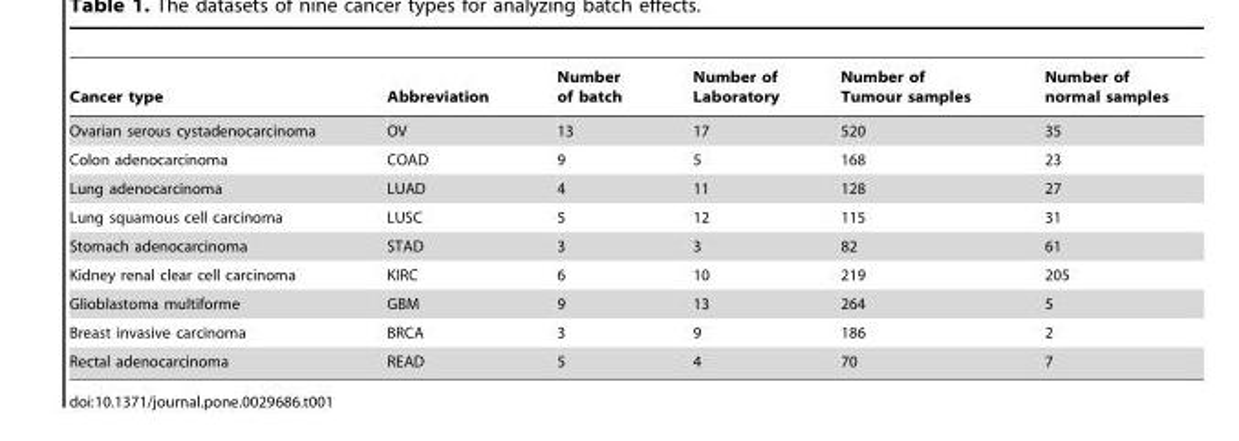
<table><thead><tr><td>Cancer type</td><td>Abbreviation</td><td>Number of batch</td><td>Number of Laboratory</td><td>Number of Tumour samples</td><td>Number of normal samples</td></tr></thead><tbody><tr><td>Ovarian serous cystadenocarcinoma</td><td>OV</td><td>13</td><td>17</td><td>520</td><td>35</td></tr><tr><td>Colon adenocarcinoma</td><td>COAD</td><td>9</td><td>5</td><td>168</td><td>23</td></tr><tr><td>Lung adenocarcinoma</td><td>LUAD</td><td>4</td><td>11</td><td>128</td><td>27</td></tr><tr><td>Lung squamous cell carcinoma</td><td>LUSC</td><td>5</td><td>12</td><td>115</td><td>31</td></tr><tr><td>Stomach adenocarcinoma</td><td>STAD</td><td>3</td><td>3</td><td>82</td><td>61</td></tr><tr><td>Kidney renal clear cell carcinoma</td><td>KIRC</td><td>6</td><td>10</td><td>219</td><td>205</td></tr><tr><td>Glioblastoma multiforme</td><td>GBM</td><td>9</td><td>13</td><td>264</td><td>5</td></tr><tr><td>Breast invasive carcinoma</td><td>BRCA</td><td>3</td><td>9</td><td>186</td><td>2</td></tr><tr><td>Rectal adenocarcinoma</td><td>READ</td><td>5</td><td>4</td><td>70</td><td>7</td></tr></tbody></table>